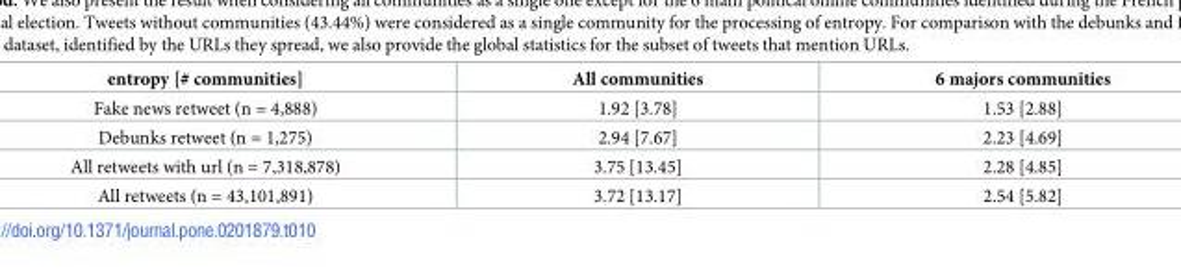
<table><thead><tr><td>entropy [# communities]</td><td>All communities</td><td>6 majors communities</td></tr></thead><tbody><tr><td>Fake news retweet (n = 4,888)</td><td>1.92 [3.78]</td><td>1.53 [2.88]</td></tr><tr><td>Debunks retweet (n = 1,275)</td><td>2.94 [7.67]</td><td>2.23 [4.69]</td></tr><tr><td>All retweets with url (n = 7,318,878)</td><td>3.75 [13.45]</td><td>2.28 [4.85]</td></tr><tr><td>All retweets (n = 43,101,891)</td><td>3.72 [13.17]</td><td>2.54 [5.82]</td></tr></tbody></table>